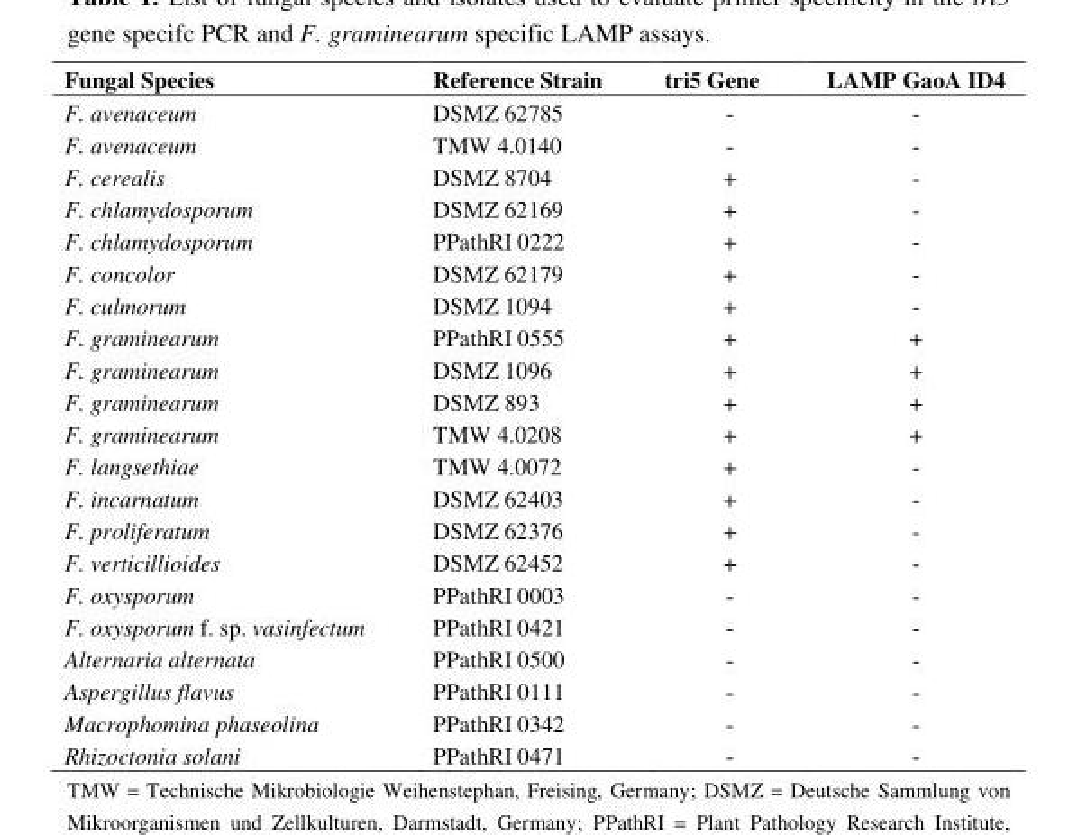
<table><thead><tr><td>Fungal Species</td><td>Reference Strain</td><td>tri5 Gene</td><td>LAMP GaoA ID4</td></tr></thead><tbody><tr><td>F. avenaceum</td><td>DSMZ 62785</td><td>-</td><td>-</td></tr><tr><td>F. avenaceum</td><td>TMW 4.0140</td><td>-</td><td>-</td></tr><tr><td>F. cerealis</td><td>DSMZ 8704</td><td>+</td><td>-</td></tr><tr><td>F. chlamydosporum</td><td>DSMZ 62169</td><td>+</td><td>-</td></tr><tr><td>F. chlamydosporum</td><td>PPathRI 0222</td><td>+</td><td>-</td></tr><tr><td>F. concolor</td><td>DSMZ 62179</td><td>+</td><td>-</td></tr><tr><td>F. culmorum</td><td>DSMZ 1094</td><td>+</td><td>-</td></tr><tr><td>F. graminearum</td><td>PPathRI 0555</td><td>+</td><td>+</td></tr><tr><td>F. graminearum</td><td>DSMZ 1096</td><td>+</td><td>+</td></tr><tr><td>F. graminearum</td><td>DSMZ 893</td><td>+</td><td>+</td></tr><tr><td>F. graminearum</td><td>TMW 4.0208</td><td>+</td><td>+</td></tr><tr><td>F. langsethiae</td><td>TMW 4.0072</td><td>+</td><td>-</td></tr><tr><td>F. incarnatum</td><td>DSMZ 62403</td><td>+</td><td>-</td></tr><tr><td>F. proliferatum</td><td>DSMZ 62376</td><td>+</td><td>-</td></tr><tr><td>F. verticillioides</td><td>DSMZ 62452</td><td>+</td><td>-</td></tr><tr><td>F. oxysporum</td><td>PPathRI 0003</td><td>-</td><td>-</td></tr><tr><td>F. oxysporum f. sp. vasinfectum</td><td>PPathRI 0421</td><td>-</td><td>-</td></tr><tr><td>Alternaria alternata</td><td>PPathRI 0500</td><td>-</td><td>-</td></tr><tr><td>Aspergillus flavus</td><td>PPathRI 0111</td><td>-</td><td>-</td></tr><tr><td>Macrophomina phaseolina</td><td>PPathRI 0342</td><td>-</td><td>-</td></tr><tr><td>Rhizoctonia solani</td><td>PPathRI 0471</td><td>-</td><td>-</td></tr></tbody></table>